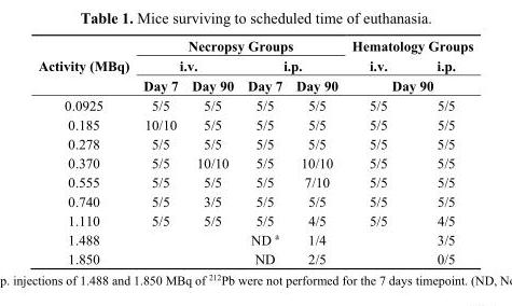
<table><thead><tr><td rowspan="3">Activity (MBq)</td><td colspan="4">Necropsy Groups</td><td colspan="2">Hematology Groups</td></tr><tr><td colspan="2">i.v.</td><td colspan="2">i.p.</td><td>i.v.</td><td>i.p.</td></tr><tr><td>Day 7</td><td>Day 90</td><td>Day 7</td><td>Day 90</td><td colspan="2">Day 90</td></tr></thead><tbody><tr><td>0.0925</td><td>5/5</td><td>5/5</td><td>5/5</td><td>5/5</td><td>5/5</td><td>5/5</td></tr><tr><td>0.185</td><td>10/10</td><td>5/5</td><td>5/5</td><td>5/5</td><td>5/5</td><td>5/5</td></tr><tr><td>0.278</td><td>5/5</td><td>5/5</td><td>5/5</td><td>5/5</td><td>5/5</td><td>5/5</td></tr><tr><td>0.370</td><td>5/5</td><td>10/10</td><td>5/5</td><td>10/10</td><td>5/5</td><td>5/5</td></tr><tr><td>0.555</td><td>5/5</td><td>5/5</td><td>5/5</td><td>7/10</td><td>5/5</td><td>5/5</td></tr><tr><td>0.740</td><td>5/5</td><td>3/5</td><td>5/5</td><td>5/5</td><td>5/5</td><td>5/5</td></tr><tr><td>1.110</td><td>5/5</td><td>5/5</td><td>5/5</td><td>4/5</td><td>5/5</td><td>4/5</td></tr><tr><td>1.488</td><td></td><td></td><td>ND <sup>a</sup></td><td>1/4</td><td></td><td>3/5</td></tr><tr><td>1.850</td><td></td><td></td><td>ND</td><td>2/5</td><td></td><td>0/5</td></tr></tbody></table>